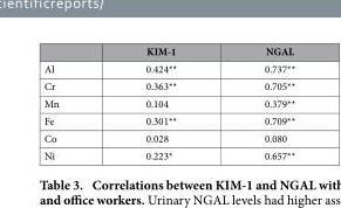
<table><thead><tr><td></td><td>KIM-1</td><td>NGAL</td></tr></thead><tbody><tr><td>Al</td><td>0.424**</td><td>0.737**</td></tr><tr><td>Cr</td><td>0.363**</td><td>0.705**</td></tr><tr><td>Mn</td><td>0.104</td><td>0.379**</td></tr><tr><td>Fe</td><td>0.301**</td><td>0.709**</td></tr><tr><td>Co</td><td>0.028</td><td>0.080</td></tr><tr><td>Ni</td><td>0.223*</td><td>0.657**</td></tr></tbody></table>